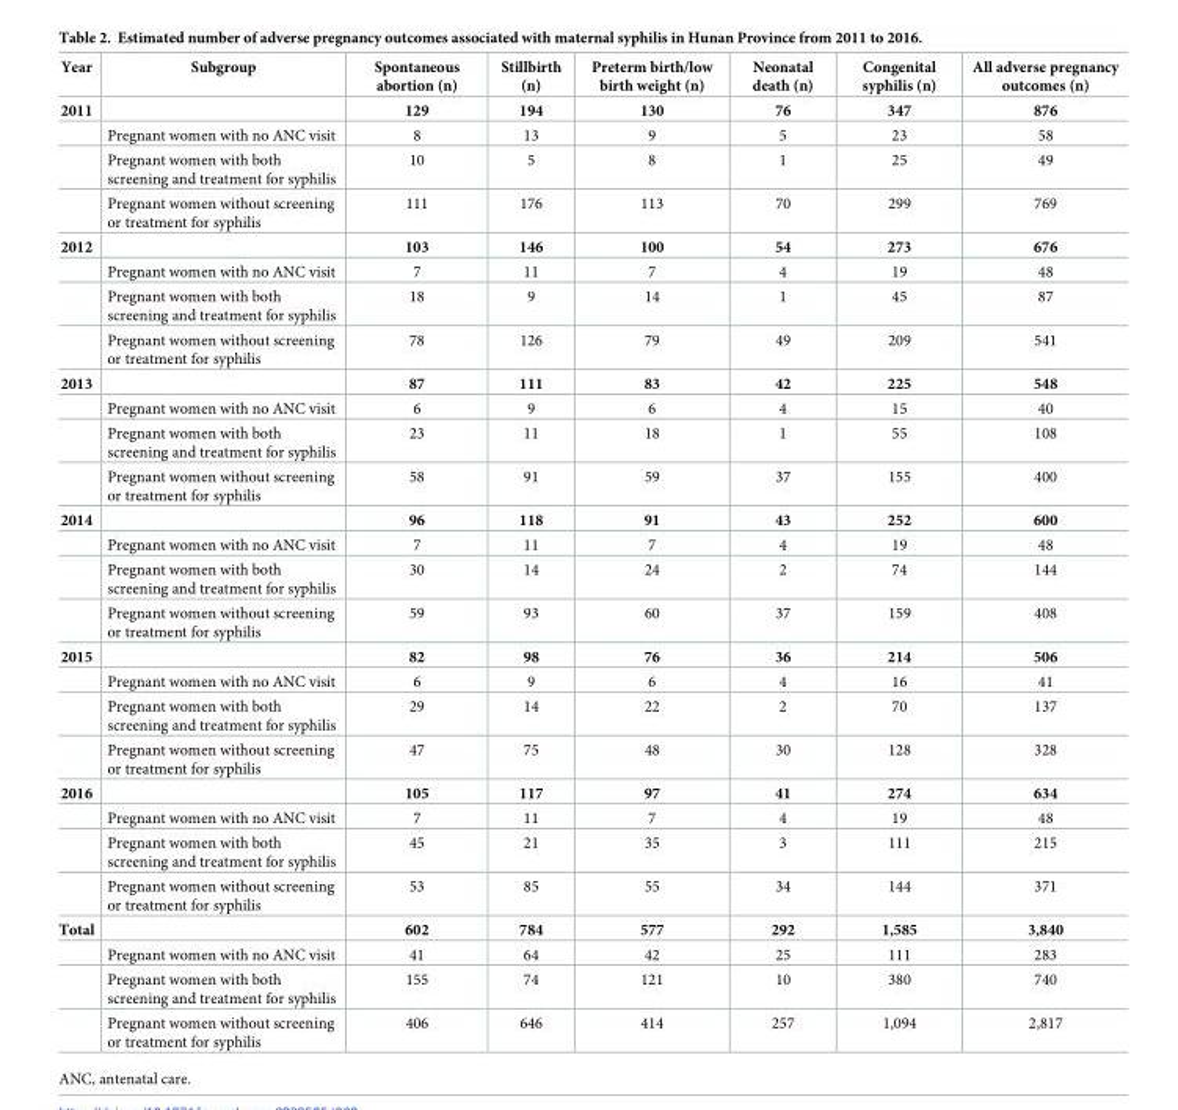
<table><thead><tr><td>Year</td><td>Subgroup</td><td>Spontaneous abortion (n)</td><td>Stillbirth (n)</td><td>Preterm birth/low birth weight (n)</td><td>Neonatal death (n)</td><td>Congenital syphilis (n)</td><td>All adverse pregnancy outcomes (n)</td></tr></thead><tbody><tr><td rowspan="4">2011</td><td></td><td>129</td><td>194</td><td>130</td><td>76</td><td>347</td><td>876</td></tr><tr><td>Pregnant women with no ANC visit</td><td>8</td><td>13</td><td>9</td><td>5</td><td>23</td><td>58</td></tr><tr><td>Pregnant women with both screening and treatment for syphilis</td><td>10</td><td>5</td><td>8</td><td>1</td><td>25</td><td>49</td></tr><tr><td>Pregnant women without screening or treatment for syphilis</td><td>111</td><td>176</td><td>113</td><td>70</td><td>299</td><td>769</td></tr><tr><td rowspan="4">2012</td><td></td><td>103</td><td>146</td><td>100</td><td>54</td><td>273</td><td>676</td></tr><tr><td>Pregnant women with no ANC visit</td><td>7</td><td>11</td><td>7</td><td>4</td><td>19</td><td>48</td></tr><tr><td>Pregnant women with both screening and treatment for syphilis</td><td>18</td><td>9</td><td>14</td><td>1</td><td>45</td><td>87</td></tr><tr><td>Pregnant women without screening or treatment for syphilis</td><td>78</td><td>126</td><td>79</td><td>49</td><td>209</td><td>541</td></tr><tr><td rowspan="4">2013</td><td></td><td>87</td><td>111</td><td>83</td><td>42</td><td>225</td><td>548</td></tr><tr><td>Pregnant women with no ANC visit</td><td>6</td><td>9</td><td>6</td><td>4</td><td>15</td><td>40</td></tr><tr><td>Pregnant women with both screening and treatment for syphilis</td><td>23</td><td>11</td><td>18</td><td>1</td><td>55</td><td>108</td></tr><tr><td>Pregnant women without screening or treatment for syphilis</td><td>58</td><td>91</td><td>59</td><td>37</td><td>155</td><td>400</td></tr><tr><td rowspan="4">2014</td><td></td><td>96</td><td>118</td><td>91</td><td>43</td><td>252</td><td>600</td></tr><tr><td>Pregnant women with no ANC visit</td><td>7</td><td>11</td><td>7</td><td>4</td><td>19</td><td>48</td></tr><tr><td>Pregnant women with both screening and treatment for syphilis</td><td>30</td><td>14</td><td>24</td><td>2</td><td>74</td><td>144</td></tr><tr><td>Pregnant women without screening or treatment for syphilis</td><td>59</td><td>93</td><td>60</td><td>37</td><td>159</td><td>408</td></tr><tr><td rowspan="4">2015</td><td></td><td>82</td><td>98</td><td>76</td><td>36</td><td>214</td><td>506</td></tr><tr><td>Pregnant women with no ANC visit</td><td>6</td><td>9</td><td>6</td><td>4</td><td>16</td><td>41</td></tr><tr><td>Pregnant women with both screening and treatment for syphilis</td><td>29</td><td>14</td><td>22</td><td>2</td><td>70</td><td>137</td></tr><tr><td>Pregnant women without screening or treatment for syphilis</td><td>47</td><td>75</td><td>48</td><td>30</td><td>128</td><td>328</td></tr><tr><td rowspan="4">2016</td><td></td><td>105</td><td>117</td><td>97</td><td>41</td><td>274</td><td>634</td></tr><tr><td>Pregnant women with no ANC visit</td><td>7</td><td>11</td><td>7</td><td>4</td><td>19</td><td>48</td></tr><tr><td>Pregnant women with both screening and treatment for syphilis</td><td>45</td><td>21</td><td>35</td><td>3</td><td>111</td><td>215</td></tr><tr><td>Pregnant women without screening or treatment for syphilis</td><td>53</td><td>85</td><td>55</td><td>34</td><td>144</td><td>371</td></tr><tr><td rowspan="4">Total</td><td></td><td>602</td><td>784</td><td>577</td><td>292</td><td>1,585</td><td>3,840</td></tr><tr><td>Pregnant women with no ANC visit</td><td>41</td><td>64</td><td>42</td><td>25</td><td>111</td><td>283</td></tr><tr><td>Pregnant women with both screening and treatment for syphilis</td><td>155</td><td>74</td><td>121</td><td>10</td><td>380</td><td>740</td></tr><tr><td>Pregnant women without screening or treatment for syphilis</td><td>406</td><td>646</td><td>414</td><td>257</td><td>1,094</td><td>2,817</td></tr></tbody></table>